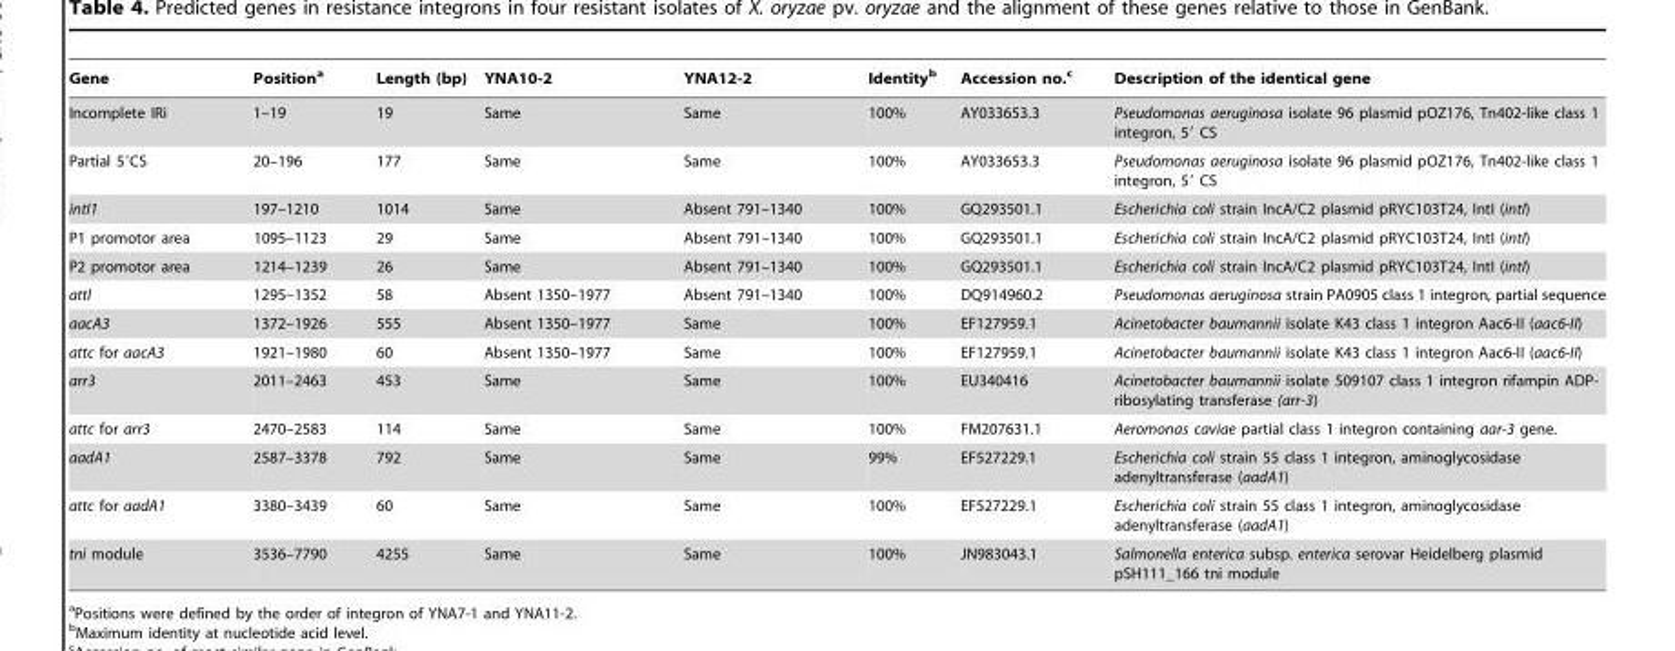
<table><thead><tr><td>Gene</td><td>Position<sup>a</sup></td><td>Length (bp)</td><td>YNA10-2</td><td>YNA12-2</td><td>Identity<sup>b</sup></td><td>Accession no.<sup>c</sup></td><td>Description of the identical gene</td></tr></thead><tbody><tr><td>Incomplete IRi</td><td>1–19</td><td>19</td><td>Same</td><td>Same</td><td>100%</td><td>AY033653.3</td><td>Pseudomonas aeruginosa isolate 96 plasmid pOZ176, Tn402-like class 1 integron, 5′ CS</td></tr><tr><td>Partial 5′CS</td><td>20–196</td><td>177</td><td>Same</td><td>Same</td><td>100%</td><td>AY033653.3</td><td>Pseudomonas aeruginosa isolate 96 plasmid pOZ176, Tn402-like class 1 integron, 5′ CS</td></tr><tr><td>intI1</td><td>197–1210</td><td>1014</td><td>Same</td><td>Absent 791–1340</td><td>100%</td><td>GQ293501.1</td><td>Escherichia coli strain IncA/C2 plasmid pRYC103T24, IntI (intI)</td></tr><tr><td>P1 promotor area</td><td>1095–1123</td><td>29</td><td>Same</td><td>Absent 791–1340</td><td>100%</td><td>GQ293501.1</td><td>Escherichia coli strain IncA/C2 plasmid pRYC103T24, IntI (intI)</td></tr><tr><td>P2 promotor area</td><td>1214–1239</td><td>26</td><td>Same</td><td>Absent 791–1340</td><td>100%</td><td>GQ293501.1</td><td>Escherichia coli strain IncA/C2 plasmid pRYC103T24, IntI (intI)</td></tr><tr><td>attI</td><td>1295–1352</td><td>58</td><td>Absent 1350–1977</td><td>Absent 791–1340</td><td>100%</td><td>DQ914960.2</td><td>Pseudomonas aeruginosa strain PA0905 class 1 integron, partial sequence</td></tr><tr><td>aacA3</td><td>1372–1926</td><td>555</td><td>Absent 1350–1977</td><td>Same</td><td>100%</td><td>EF127959.1</td><td>Acinetobacter baumannii isolate K43 class 1 integron Aac6-II (aac6-II)</td></tr><tr><td>attc for aacA3</td><td>1921–1980</td><td>60</td><td>Absent 1350–1977</td><td>Same</td><td>100%</td><td>EF127959.1</td><td>Acinetobacter baumannii isolate K43 class 1 integron Aac6-II (aac6-II)</td></tr><tr><td>arr3</td><td>2011–2463</td><td>453</td><td>Same</td><td>Same</td><td>100%</td><td>EU340416</td><td>Acinetobacter baumannii isolate 509107 class 1 integron rifampin ADP- ribosylating transferase (arr-3)</td></tr><tr><td>attc for arr3</td><td>2470–2583</td><td>114</td><td>Same</td><td>Same</td><td>100%</td><td>FM207631.1</td><td>Aeromonas caviae partial class 1 integron containing aar-3 gene.</td></tr><tr><td>aadA1</td><td>2587–3378</td><td>792</td><td>Same</td><td>Same</td><td>99%</td><td>EF527229.1</td><td>Escherichia coli strain 55 class 1 integron, aminoglycosidase adenyltransferase (aadA1)</td></tr><tr><td>attc for aadA1</td><td>3380–3439</td><td>60</td><td>Same</td><td>Same</td><td>100%</td><td>EF527229.1</td><td>Escherichia coli strain 55 class 1 integron, aminoglycosidase adenyltransferase (aadA1)</td></tr><tr><td>tni module</td><td>3536–7790</td><td>4255</td><td>Same</td><td>Same</td><td>100%</td><td>JN983043.1</td><td>Salmonella enterica subsp. enterica serovar Heidelberg plasmid pSH111_166 tni module</td></tr></tbody></table>